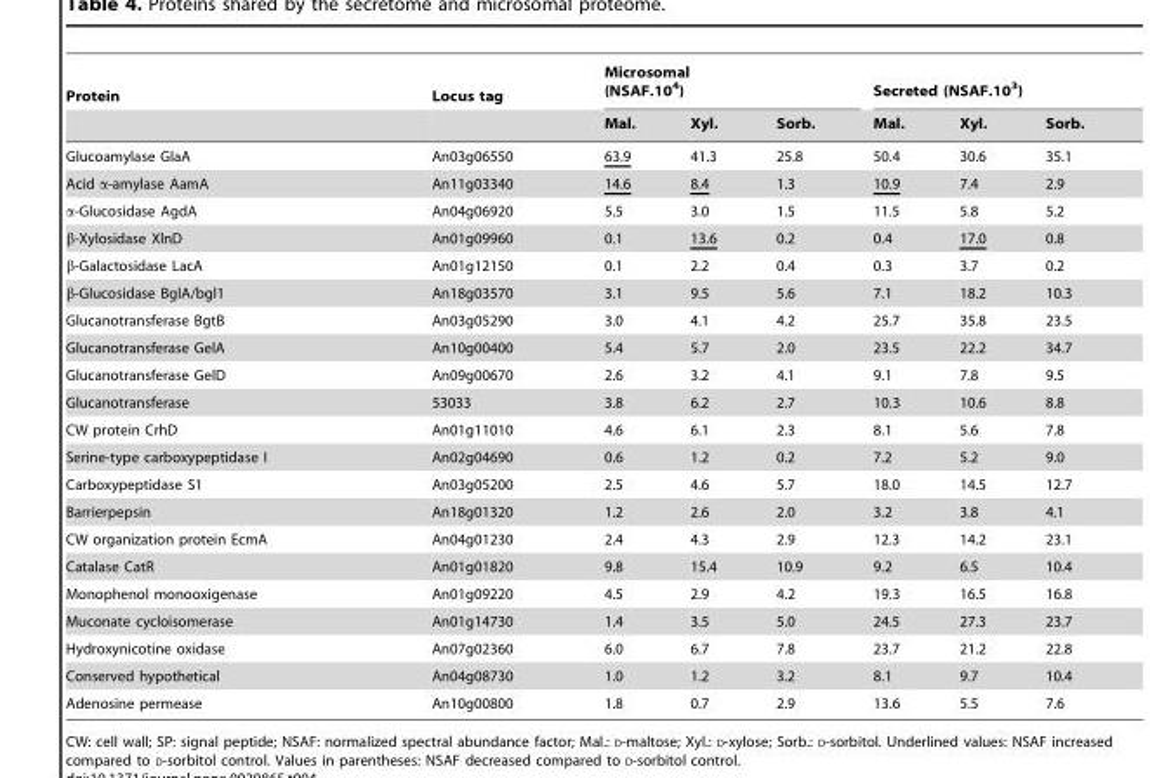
<table><thead><tr><td rowspan="2">Protein</td><td rowspan="2">Locus tag</td><td colspan="3">Microsomal (NSAF.10<sup>4</sup>)</td><td colspan="3">Secreted (NSAF.10<sup>3</sup>)</td></tr><tr><td>Mal.</td><td>Xyl.</td><td>Sorb.</td><td>Mal.</td><td>Xyl.</td><td>Sorb.</td></tr></thead><tbody><tr><td>Glucoamylase GlaA</td><td>An03g06550</td><td>63.9</td><td>41.3</td><td>25.8</td><td>50.4</td><td>30.6</td><td>35.1</td></tr><tr><td>Acid α-amylase AamA</td><td>An11g03340</td><td>14.6</td><td>8.4</td><td>1.3</td><td>10.9</td><td>7.4</td><td>2.9</td></tr><tr><td>α-Glucosidase AgdA</td><td>An04g06920</td><td>5.5</td><td>3.0</td><td>1.5</td><td>11.5</td><td>5.8</td><td>5.2</td></tr><tr><td>β-Xylosidase XlnD</td><td>An01g09960</td><td>0.1</td><td>13.6</td><td>0.2</td><td>0.4</td><td>17.0</td><td>0.8</td></tr><tr><td>β-Galactosidase LacA</td><td>An01g12150</td><td>0.1</td><td>2.2</td><td>0.4</td><td>0.3</td><td>3.7</td><td>0.2</td></tr><tr><td>β-Glucosidase BglA/bgl1</td><td>An18g03570</td><td>3.1</td><td>9.5</td><td>5.6</td><td>7.1</td><td>18.2</td><td>10.3</td></tr><tr><td>Glucanotransferase BgtB</td><td>An03g05290</td><td>3.0</td><td>4.1</td><td>4.2</td><td>25.7</td><td>35.8</td><td>23.5</td></tr><tr><td>Glucanotransferase GelA</td><td>An10g00400</td><td>5.4</td><td>5.7</td><td>2.0</td><td>23.5</td><td>22.2</td><td>34.7</td></tr><tr><td>Glucanotransferase GelD</td><td>An09g00670</td><td>2.6</td><td>3.2</td><td>4.1</td><td>9.1</td><td>7.8</td><td>9.5</td></tr><tr><td>Glucanotransferase</td><td>53033</td><td>3.8</td><td>6.2</td><td>2.7</td><td>10.3</td><td>10.6</td><td>8.8</td></tr><tr><td>CW protein CrhD</td><td>An01g11010</td><td>4.6</td><td>6.1</td><td>2.3</td><td>8.1</td><td>5.6</td><td>7.8</td></tr><tr><td>Serine-type carboxypeptidase I</td><td>An02g04690</td><td>0.6</td><td>1.2</td><td>0.2</td><td>7.2</td><td>5.2</td><td>9.0</td></tr><tr><td>Carboxypeptidase S1</td><td>An03g05200</td><td>2.5</td><td>4.6</td><td>5.7</td><td>18.0</td><td>14.5</td><td>12.7</td></tr><tr><td>Barrierpepsin</td><td>An18g01320</td><td>1.2</td><td>2.6</td><td>2.0</td><td>3.2</td><td>3.8</td><td>4.1</td></tr><tr><td>CW organization protein EcmA</td><td>An04g01230</td><td>2.4</td><td>4.3</td><td>2.9</td><td>12.3</td><td>14.2</td><td>23.1</td></tr><tr><td>Catalase CatR</td><td>An01g01820</td><td>9.8</td><td>15.4</td><td>10.9</td><td>9.2</td><td>6.5</td><td>10.4</td></tr><tr><td>Monophenol monooxigenase</td><td>An01g09220</td><td>4.5</td><td>2.9</td><td>4.2</td><td>19.3</td><td>16.5</td><td>16.8</td></tr><tr><td>Muconate cycloisomerase</td><td>An01g14730</td><td>1.4</td><td>3.5</td><td>5.0</td><td>24.5</td><td>27.3</td><td>23.7</td></tr><tr><td>Hydroxynicotine oxidase</td><td>An07g02360</td><td>6.0</td><td>6.7</td><td>7.8</td><td>23.7</td><td>21.2</td><td>22.8</td></tr><tr><td>Conserved hypothetical</td><td>An04g08730</td><td>1.0</td><td>1.2</td><td>3.2</td><td>8.1</td><td>9.7</td><td>10.4</td></tr><tr><td>Adenosine permease</td><td>An10g00800</td><td>1.8</td><td>0.7</td><td>2.9</td><td>13.6</td><td>5.5</td><td>7.6</td></tr></tbody></table>